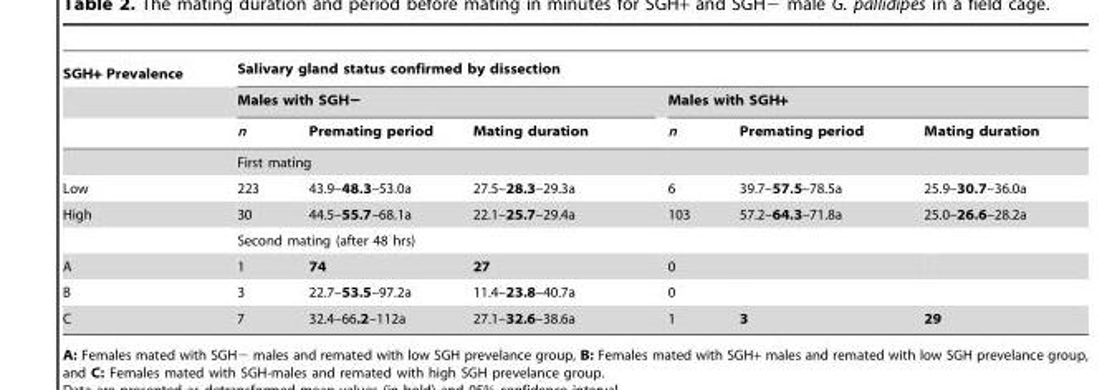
<table><thead><tr><td rowspan="3">SGH+ Prevalence</td><td colspan="6">Salivary gland status confirmed by dissection</td></tr><tr><td colspan="3">Males with SGH−</td><td colspan="3">Males with SGH+</td></tr><tr><td>n</td><td>Premating period</td><td>Mating duration</td><td>n</td><td>Premating period</td><td>Mating duration</td></tr></thead><tbody><tr><td></td><td colspan="6">First mating</td></tr><tr><td>Low</td><td>223</td><td>43.9–48.3–53.0a</td><td>27.5–28.3–29.3a</td><td>6</td><td>39.7–57.5–78.5a</td><td>25.9–30.7–36.0a</td></tr><tr><td rowspan="2">High</td><td>30</td><td>44.5–55.7–68.1a</td><td>22.1–25.7–29.4a</td><td>103</td><td>57.2–64.3–71.8a</td><td>25.0–26.6–28.2a</td></tr><tr><td colspan="6">Second mating (after 48 hrs)</td></tr><tr><td>A</td><td>1</td><td>74</td><td>27</td><td>0</td><td></td><td></td></tr><tr><td>B</td><td>3</td><td>22.7–53.5–97.2a</td><td>11.4–23.8–40.7a</td><td>0</td><td></td><td></td></tr><tr><td>C</td><td>7</td><td>32.4–66.2–112a</td><td>27.1–32.6–38.6a</td><td>1</td><td>3</td><td>29</td></tr></tbody></table>